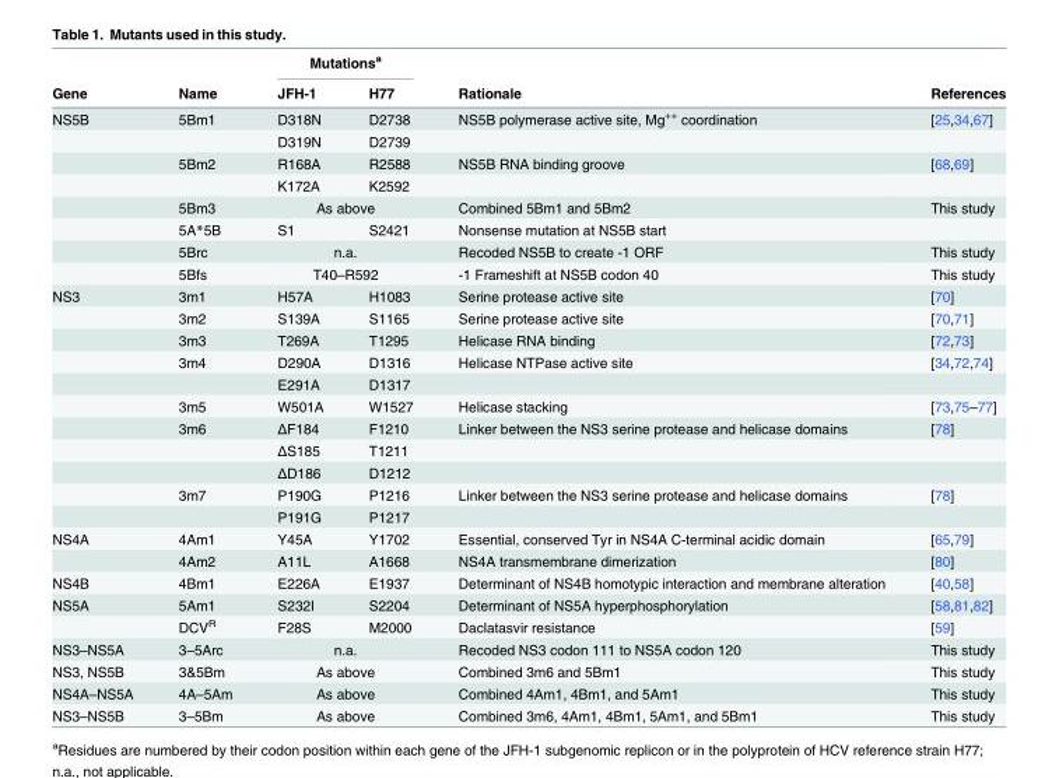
<table><thead><tr><td rowspan="2">Gene</td><td rowspan="2">Name</td><td colspan="2">Mutations<sup>a</sup></td><td rowspan="2">Rationale</td><td rowspan="2">References</td></tr><tr><td>JFH-1</td><td>H77</td></tr></thead><tbody><tr><td rowspan="8">NS5B</td><td>5Bm1</td><td>D318N</td><td>D2738</td><td>NS5B polymerase active site, Mg<sup>++</sup> coordination</td><td>[25,34,67]</td></tr><tr><td></td><td>D319N</td><td>D2739</td><td></td><td></td></tr><tr><td>5Bm2</td><td>R168A</td><td>R2588</td><td>NS5B RNA binding groove</td><td>[68,69]</td></tr><tr><td></td><td>K172A</td><td>K2592</td><td></td><td></td></tr><tr><td>5Bm3</td><td colspan="2">As above</td><td>Combined 5Bm1 and 5Bm2</td><td>This study</td></tr><tr><td>5A*5B</td><td>S1</td><td>S2421</td><td>Nonsense mutation at NS5B start</td><td></td></tr><tr><td>5Brc</td><td colspan="2">n.a.</td><td>Recoded NS5B to create -1 ORF</td><td>This study</td></tr><tr><td>5Bfs</td><td colspan="2">T40–R592</td><td>-1 Frameshift at NS5B codon 40</td><td>This study</td></tr><tr><td rowspan="11">NS3</td><td>3m1</td><td>H57A</td><td>H1083</td><td>Serine protease active site</td><td>[70]</td></tr><tr><td>3m2</td><td>S139A</td><td>S1165</td><td>Serine protease active site</td><td>[70,71]</td></tr><tr><td>3m3</td><td>T269A</td><td>T1295</td><td>Helicase RNA binding</td><td>[72,73]</td></tr><tr><td>3m4</td><td>D290A</td><td>D1316</td><td>Helicase NTPase active site</td><td>[34,72,74]</td></tr><tr><td></td><td>E291A</td><td>D1317</td><td></td><td></td></tr><tr><td>3m5</td><td>W501A</td><td>W1527</td><td>Helicase stacking</td><td>[73,75–77]</td></tr><tr><td>3m6</td><td>ΔF184</td><td>F1210</td><td>Linker between the NS3 serine protease and helicase domains</td><td>[78]</td></tr><tr><td></td><td>ΔS185</td><td>T1211</td><td></td><td></td></tr><tr><td></td><td>ΔD186</td><td>D1212</td><td></td><td></td></tr><tr><td>3m7</td><td>P190G</td><td>P1216</td><td>Linker between the NS3 serine protease and helicase domains</td><td>[78]</td></tr><tr><td></td><td>P191G</td><td>P1217</td><td></td><td></td></tr><tr><td rowspan="2">NS4A</td><td>4Am1</td><td>Y45A</td><td>Y1702</td><td>Essential, conserved Tyr in NS4A C-terminal acidic domain</td><td>[65,79]</td></tr><tr><td>4Am2</td><td>A11L</td><td>A1668</td><td>NS4A transmembrane dimerization</td><td>[80]</td></tr><tr><td>NS4B</td><td>4Bm1</td><td>E226A</td><td>E1937</td><td>Determinant of NS4B homotypic interaction and membrane alteration</td><td>[40,58]</td></tr><tr><td rowspan="2">NS5A</td><td>5Am1</td><td>S232I</td><td>S2204</td><td>Determinant of NS5A hyperphosphorylation</td><td>[58,81,82]</td></tr><tr><td>DCV<sup>R</sup></td><td>F28S</td><td>M2000</td><td>Daclatasvir resistance</td><td>[59]</td></tr><tr><td>NS3–NS5A</td><td>3–5Arc</td><td colspan="2">n.a.</td><td>Recoded NS3 codon 111 to NS5A codon 120</td><td>This study</td></tr><tr><td>NS3, NS5B</td><td>3&amp;5Bm</td><td colspan="2">As above</td><td>Combined 3m6 and 5Bm1</td><td>This study</td></tr><tr><td>NS4A–NS5A</td><td>4A–5Am</td><td colspan="2">As above</td><td>Combined 4Am1, 4Bm1, and 5Am1</td><td>This study</td></tr><tr><td>NS3–NS5B</td><td>3–5Bm</td><td colspan="2">As above</td><td>Combined 3m6, 4Am1, 4Bm1, 5Am1, and 5Bm1</td><td>This study</td></tr></tbody></table>